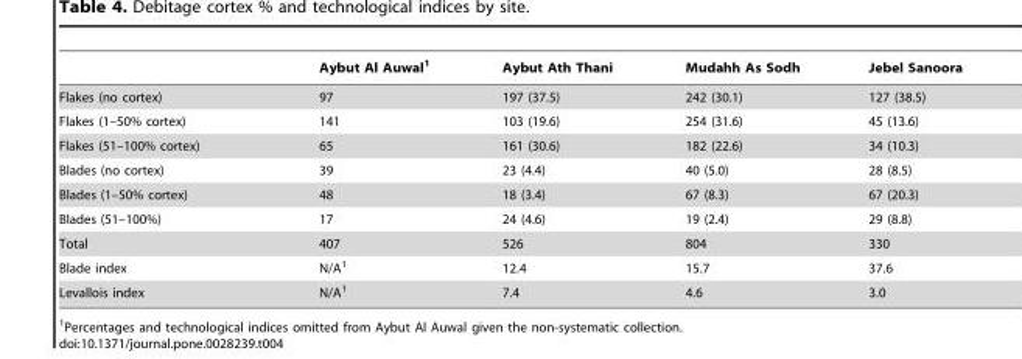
<table><thead><tr><td></td><td>Aybut Al Auwal<sup>1</sup></td><td>Aybut Ath Thani</td><td>Mudahh As Sodh</td><td>Jebel Sanoora</td></tr></thead><tbody><tr><td>Flakes (no cortex)</td><td>97</td><td>197 (37.5)</td><td>242 (30.1)</td><td>127 (38.5)</td></tr><tr><td>Flakes (1–50% cortex)</td><td>141</td><td>103 (19.6)</td><td>254 (31.6)</td><td>45 (13.6)</td></tr><tr><td>Flakes (51–100% cortex)</td><td>65</td><td>161 (30.6)</td><td>182 (22.6)</td><td>34 (10.3)</td></tr><tr><td>Blades (no cortex)</td><td>39</td><td>23 (4.4)</td><td>40 (5.0)</td><td>28 (8.5)</td></tr><tr><td>Blades (1–50% cortex)</td><td>48</td><td>18 (3.4)</td><td>67 (8.3)</td><td>67 (20.3)</td></tr><tr><td>Blades (51–100%)</td><td>17</td><td>24 (4.6)</td><td>19 (2.4)</td><td>29 (8.8)</td></tr><tr><td>Total</td><td>407</td><td>526</td><td>804</td><td>330</td></tr><tr><td>Blade index</td><td>N/A<sup>1</sup></td><td>12.4</td><td>15.7</td><td>37.6</td></tr><tr><td>Levallois index</td><td>N/A<sup>1</sup></td><td>7.4</td><td>4.6</td><td>3.0</td></tr></tbody></table>